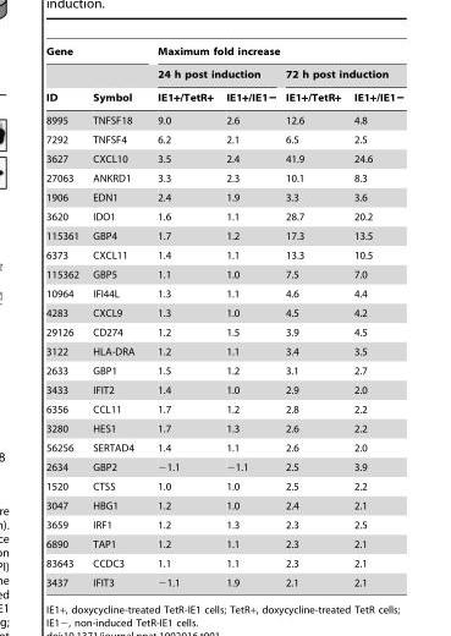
<table><thead><tr><td colspan="2">Gene</td><td colspan="4">Maximum fold increase</td></tr><tr><td rowspan="2">ID</td><td rowspan="2">Symbol</td><td colspan="2">24 h post induction</td><td colspan="2">72 h post induction</td></tr><tr><td>IE1+/TetR+</td><td>IE1+/IE1−</td><td>IE1+/TetR+</td><td>IE1+/IE1−</td></tr></thead><tbody><tr><td>8995</td><td>TNFSF18</td><td>9.0</td><td>2.6</td><td>12.6</td><td>4.8</td></tr><tr><td>7292</td><td>TNFSF4</td><td>6.2</td><td>2.1</td><td>6.5</td><td>2.5</td></tr><tr><td>3627</td><td>CXCL10</td><td>3.5</td><td>2.4</td><td>41.9</td><td>24.6</td></tr><tr><td>27063</td><td>ANKRD1</td><td>3.3</td><td>2.3</td><td>10.1</td><td>8.3</td></tr><tr><td>1906</td><td>EDN1</td><td>2.4</td><td>1.9</td><td>3.3</td><td>3.6</td></tr><tr><td>3620</td><td>IDO1</td><td>1.6</td><td>1.1</td><td>28.7</td><td>20.2</td></tr><tr><td>115361</td><td>GBP4</td><td>1.7</td><td>1.2</td><td>17.3</td><td>13.5</td></tr><tr><td>6373</td><td>CXCL11</td><td>1.4</td><td>1.1</td><td>13.3</td><td>10.5</td></tr><tr><td>115362</td><td>GBP5</td><td>1.1</td><td>1.0</td><td>7.5</td><td>7.0</td></tr><tr><td>10964</td><td>IFI44L</td><td>1.3</td><td>1.1</td><td>4.6</td><td>4.4</td></tr><tr><td>4283</td><td>CXCL9</td><td>1.3</td><td>1.0</td><td>4.5</td><td>4.2</td></tr><tr><td>29126</td><td>CD274</td><td>1.2</td><td>1.5</td><td>3.9</td><td>4.5</td></tr><tr><td>3122</td><td>HLA-DRA</td><td>1.2</td><td>1.1</td><td>3.4</td><td>3.5</td></tr><tr><td>2633</td><td>GBP1</td><td>1.5</td><td>1.2</td><td>3.1</td><td>2.7</td></tr><tr><td>3433</td><td>IFIT2</td><td>1.4</td><td>1.0</td><td>2.9</td><td>2.0</td></tr><tr><td>6356</td><td>CCL11</td><td>1.7</td><td>1.2</td><td>2.8</td><td>2.2</td></tr><tr><td>3280</td><td>HES1</td><td>1.7</td><td>1.3</td><td>2.6</td><td>2.2</td></tr><tr><td>56256</td><td>SERTAD4</td><td>1.4</td><td>1.1</td><td>2.6</td><td>2.0</td></tr><tr><td>2634</td><td>GBP2</td><td>−1.1</td><td>−1.1</td><td>2.5</td><td>3.9</td></tr><tr><td>1520</td><td>CTSS</td><td>1.0</td><td>1.0</td><td>2.5</td><td>2.2</td></tr><tr><td>3047</td><td>HBG1</td><td>1.2</td><td>1.0</td><td>2.4</td><td>2.1</td></tr><tr><td>3659</td><td>IRF1</td><td>1.2</td><td>1.3</td><td>2.3</td><td>2.5</td></tr><tr><td>6890</td><td>TAP1</td><td>1.2</td><td>1.1</td><td>2.3</td><td>2.1</td></tr><tr><td>83643</td><td>CCDC3</td><td>1.1</td><td>1.1</td><td>2.3</td><td>2.1</td></tr><tr><td>3437</td><td>IFIT3</td><td>−1.1</td><td>1.9</td><td>2.1</td><td>2.1</td></tr></tbody></table>